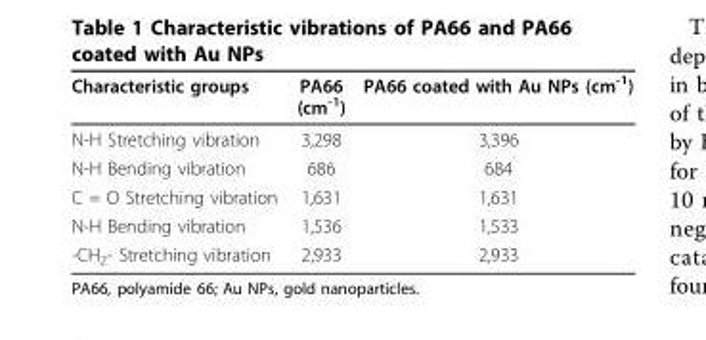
<table><thead><tr><td>Characteristic groups</td><td>PA66 (cm<sup>-1</sup>)</td><td>PA66 coated with Au NPs (cm<sup>-1</sup>)</td></tr></thead><tbody><tr><td>N-H Stretching vibration</td><td>3,298</td><td>3,396</td></tr><tr><td>N-H Bending vibration</td><td>686</td><td>684</td></tr><tr><td>C = O Stretching vibration</td><td>1,631</td><td>1,631</td></tr><tr><td>N-H Bending vibration</td><td>1,536</td><td>1,533</td></tr><tr><td>-CH<sub>2</sub>- Stretching vibration</td><td>2,933</td><td>2,933</td></tr></tbody></table>